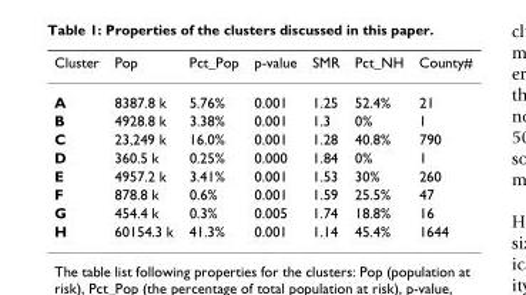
<table><thead><tr><td>Cluster</td><td>Pop</td><td>Pct_Pop</td><td>p-value</td><td>SMR</td><td>Pct_NH</td><td>County#</td></tr></thead><tbody><tr><td>A</td><td>8387.8 k</td><td>5.76%</td><td>0.001</td><td>1.25</td><td>52.4%</td><td>21</td></tr><tr><td>B</td><td>4928.8 k</td><td>3.38%</td><td>0.001</td><td>1.3</td><td>0%</td><td>1</td></tr><tr><td>C</td><td>23,249 k</td><td>16.0%</td><td>0.001</td><td>1.28</td><td>40.8%</td><td>790</td></tr><tr><td>D</td><td>360.5 k</td><td>0.25%</td><td>0.000</td><td>1.84</td><td>0%</td><td>1</td></tr><tr><td>E</td><td>4957.2 k</td><td>3.41%</td><td>0.001</td><td>1.53</td><td>30%</td><td>260</td></tr><tr><td>F</td><td>878.8 k</td><td>0.6%</td><td>0.001</td><td>1.59</td><td>25.5%</td><td>47</td></tr><tr><td>G</td><td>454.4 k</td><td>0.3%</td><td>0.005</td><td>1.74</td><td>18.8%</td><td>16</td></tr><tr><td>H</td><td>60154.3 k</td><td>41.3%</td><td>0.001</td><td>1.14</td><td>45.4%</td><td>1644</td></tr></tbody></table>